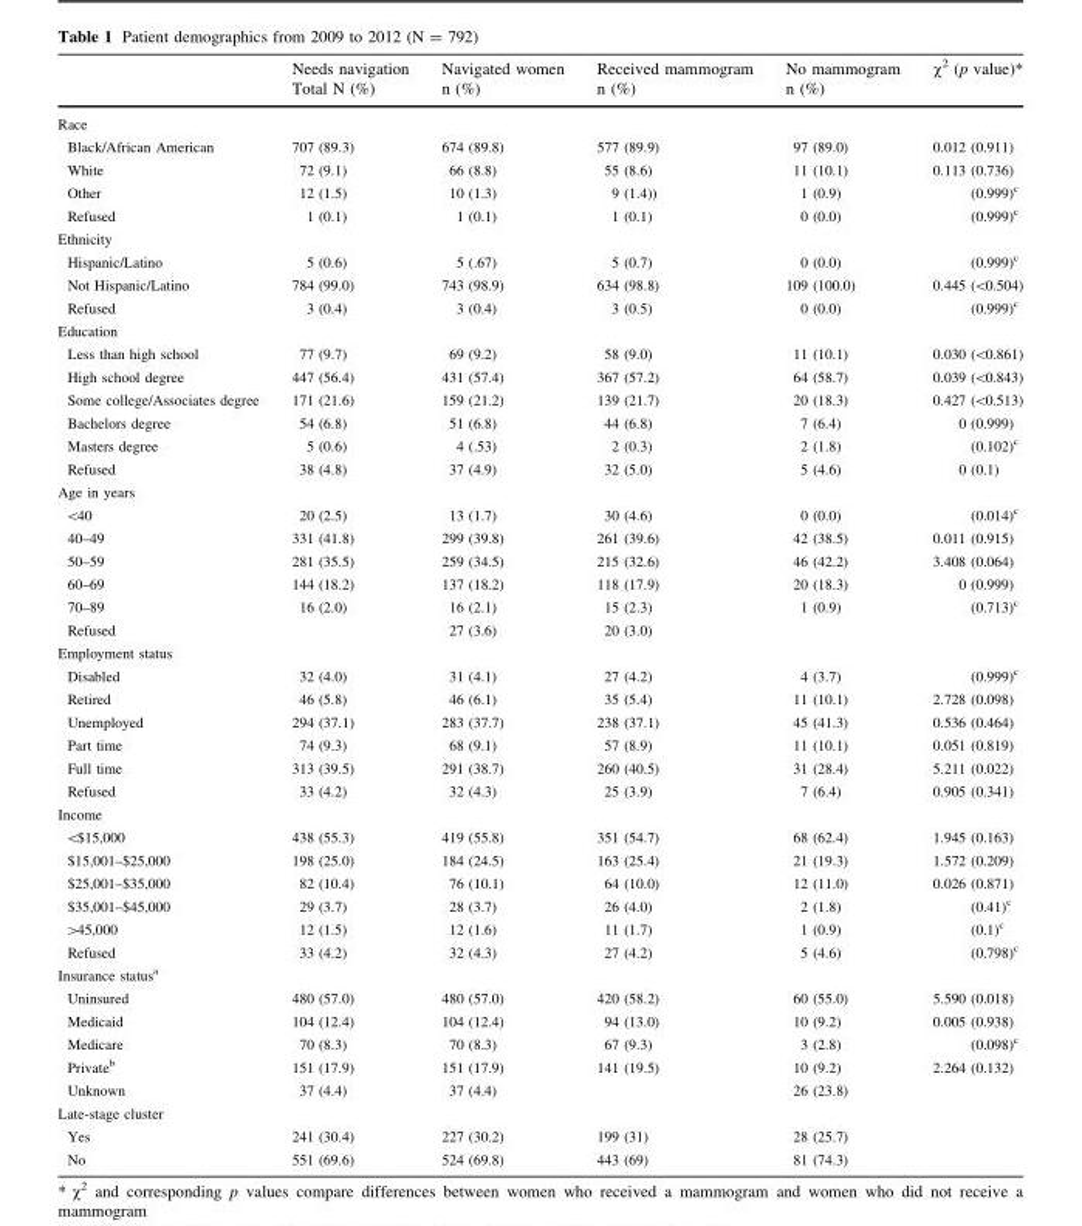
<table><thead><tr><td rowspan="2"></td><td rowspan="2">Needs navigation Total N (%)</td><td rowspan="2">Navigated women n (%)</td><td rowspan="2">Received mammogram n (%)</td><td rowspan="2">No mammogram n (%)</td><td rowspan="2">χ<sup>2</sup> (p value)*</td></tr><tr></tr></thead><tbody><tr><td colspan="6">Race</td></tr><tr><td>Black/African American</td><td>707 (89.3)</td><td>674 (89.8)</td><td>577 (89.9)</td><td>97 (89.0)</td><td>0.012 (0.911)</td></tr><tr><td>White</td><td>72 (9.1)</td><td>66 (8.8)</td><td>55 (8.6)</td><td>11 (10.1)</td><td>0.113 (0.736)</td></tr><tr><td>Other</td><td>12 (1.5)</td><td>10 (1.3)</td><td>9 (1.4))</td><td>1 (0.9)</td><td>(0.999)<sup>c</sup></td></tr><tr><td>Refused</td><td>1 (0.1)</td><td>1 (0.1)</td><td>1 (0.1)</td><td>0 (0.0)</td><td>(0.999)<sup>c</sup></td></tr><tr><td colspan="6">Ethnicity</td></tr><tr><td>Hispanic/Latino</td><td>5 (0.6)</td><td>5 (.67)</td><td>5 (0.7)</td><td>0 (0.0)</td><td>(0.999)<sup>c</sup></td></tr><tr><td>Not Hispanic/Latino</td><td>784 (99.0)</td><td>743 (98.9)</td><td>634 (98.8)</td><td>109 (100.0)</td><td>0.445 (&lt;0.504)</td></tr><tr><td>Refused</td><td>3 (0.4)</td><td>3 (0.4)</td><td>3 (0.5)</td><td>0 (0.0)</td><td>(0.999)<sup>c</sup></td></tr><tr><td colspan="6">Education</td></tr><tr><td>Less than high school</td><td>77 (9.7)</td><td>69 (9.2)</td><td>58 (9.0)</td><td>11 (10.1)</td><td>0.030 (&lt;0.861)</td></tr><tr><td>High school degree</td><td>447 (56.4)</td><td>431 (57.4)</td><td>367 (57.2)</td><td>64 (58.7)</td><td>0.039 (&lt;0.843)</td></tr><tr><td>Some college/Associates degree</td><td>171 (21.6)</td><td>159 (21.2)</td><td>139 (21.7)</td><td>20 (18.3)</td><td>0.427 (&lt;0.513)</td></tr><tr><td>Bachelors degree</td><td>54 (6.8)</td><td>51 (6.8)</td><td>44 (6.8)</td><td>7 (6.4)</td><td>0 (0.999)</td></tr><tr><td>Masters degree</td><td>5 (0.6)</td><td>4 (.53)</td><td>2 (0.3)</td><td>2 (1.8)</td><td>(0.102)<sup>c</sup></td></tr><tr><td>Refused</td><td>38 (4.8)</td><td>37 (4.9)</td><td>32 (5.0)</td><td>5 (4.6)</td><td>0 (0.1)</td></tr><tr><td colspan="6">Age in years</td></tr><tr><td>&lt;40</td><td>20 (2.5)</td><td>13 (1.7)</td><td>30 (4.6)</td><td>0 (0.0)</td><td>(0.014)<sup>c</sup></td></tr><tr><td>40–49</td><td>331 (41.8)</td><td>299 (39.8)</td><td>261 (39.6)</td><td>42 (38.5)</td><td>0.011 (0.915)</td></tr><tr><td>50–59</td><td>281 (35.5)</td><td>259 (34.5)</td><td>215 (32.6)</td><td>46 (42.2)</td><td>3.408 (0.064)</td></tr><tr><td>60–69</td><td>144 (18.2)</td><td>137 (18.2)</td><td>118 (17.9)</td><td>20 (18.3)</td><td>0 (0.999)</td></tr><tr><td>70–89</td><td>16 (2.0)</td><td>16 (2.1)</td><td>15 (2.3)</td><td>1 (0.9)</td><td>(0.713)<sup>c</sup></td></tr><tr><td>Refused</td><td></td><td>27 (3.6)</td><td>20 (3.0)</td><td></td><td></td></tr><tr><td colspan="6">Employment status</td></tr><tr><td>Disabled</td><td>32 (4.0)</td><td>31 (4.1)</td><td>27 (4.2)</td><td>4 (3.7)</td><td>(0.999)<sup>c</sup></td></tr><tr><td>Retired</td><td>46 (5.8)</td><td>46 (6.1)</td><td>35 (5.4)</td><td>11 (10.1)</td><td>2.728 (0.098)</td></tr><tr><td>Unemployed</td><td>294 (37.1)</td><td>283 (37.7)</td><td>238 (37.1)</td><td>45 (41.3)</td><td>0.536 (0.464)</td></tr><tr><td>Part time</td><td>74 (9.3)</td><td>68 (9.1)</td><td>57 (8.9)</td><td>11 (10.1)</td><td>0.051 (0.819)</td></tr><tr><td>Full time</td><td>313 (39.5)</td><td>291 (38.7)</td><td>260 (40.5)</td><td>31 (28.4)</td><td>5.211 (0.022)</td></tr><tr><td>Refused</td><td>33 (4.2)</td><td>32 (4.3)</td><td>25 (3.9)</td><td>7 (6.4)</td><td>0.905 (0.341)</td></tr><tr><td colspan="6">Income</td></tr><tr><td>&lt;$15,000</td><td>438 (55.3)</td><td>419 (55.8)</td><td>351 (54.7)</td><td>68 (62.4)</td><td>1.945 (0.163)</td></tr><tr><td>$15,001–$25,000</td><td>198 (25.0)</td><td>184 (24.5)</td><td>163 (25.4)</td><td>21 (19.3)</td><td>1.572 (0.209)</td></tr><tr><td>$25,001–$35,000</td><td>82 (10.4)</td><td>76 (10.1)</td><td>64 (10.0)</td><td>12 (11.0)</td><td>0.026 (0.871)</td></tr><tr><td>$35,001–$45,000</td><td>29 (3.7)</td><td>28 (3.7)</td><td>26 (4.0)</td><td>2 (1.8)</td><td>(0.41)<sup>c</sup></td></tr><tr><td>&gt;45,000</td><td>12 (1.5)</td><td>12 (1.6)</td><td>11 (1.7)</td><td>1 (0.9)</td><td>(0.1)<sup>c</sup></td></tr><tr><td>Refused</td><td>33 (4.2)</td><td>32 (4.3)</td><td>27 (4.2)</td><td>5 (4.6)</td><td>(0.798)<sup>c</sup></td></tr><tr><td colspan="6">Insurance status<sup>a</sup></td></tr><tr><td>Uninsured</td><td>480 (57.0)</td><td>480 (57.0)</td><td>420 (58.2)</td><td>60 (55.0)</td><td>5.590 (0.018)</td></tr><tr><td>Medicaid</td><td>104 (12.4)</td><td>104 (12.4)</td><td>94 (13.0)</td><td>10 (9.2)</td><td>0.005 (0.938)</td></tr><tr><td>Medicare</td><td>70 (8.3)</td><td>70 (8.3)</td><td>67 (9.3)</td><td>3 (2.8)</td><td>(0.098)<sup>c</sup></td></tr><tr><td>Private<sup>b</sup></td><td>151 (17.9)</td><td>151 (17.9)</td><td>141 (19.5)</td><td>10 (9.2)</td><td>2.264 (0.132)</td></tr><tr><td>Unknown</td><td>37 (4.4)</td><td>37 (4.4)</td><td></td><td>26 (23.8)</td><td></td></tr><tr><td colspan="6">Late-stage cluster</td></tr><tr><td>Yes</td><td>241 (30.4)</td><td>227 (30.2)</td><td>199 (31)</td><td>28 (25.7)</td><td></td></tr><tr><td>No</td><td>551 (69.6)</td><td>524 (69.8)</td><td>443 (69)</td><td>81 (74.3)</td><td></td></tr></tbody></table>